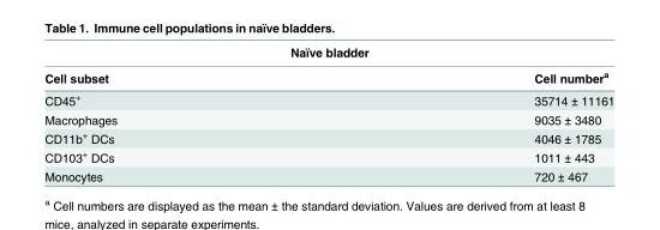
<table><thead><tr><td colspan="2">Naïve bladder</td></tr><tr><td>Cell subset</td><td>Cell number<sup>a</sup></td></tr></thead><tbody><tr><td>CD45<sup>+</sup></td><td>35714 ± 11161</td></tr><tr><td>Macrophages</td><td>9035 ± 3480</td></tr><tr><td>CD11b<sup>+</sup> DCs</td><td>4046 ± 1785</td></tr><tr><td>CD103<sup>+</sup> DCs</td><td>1011 ± 443</td></tr><tr><td>Monocytes</td><td>720 ± 467</td></tr></tbody></table>